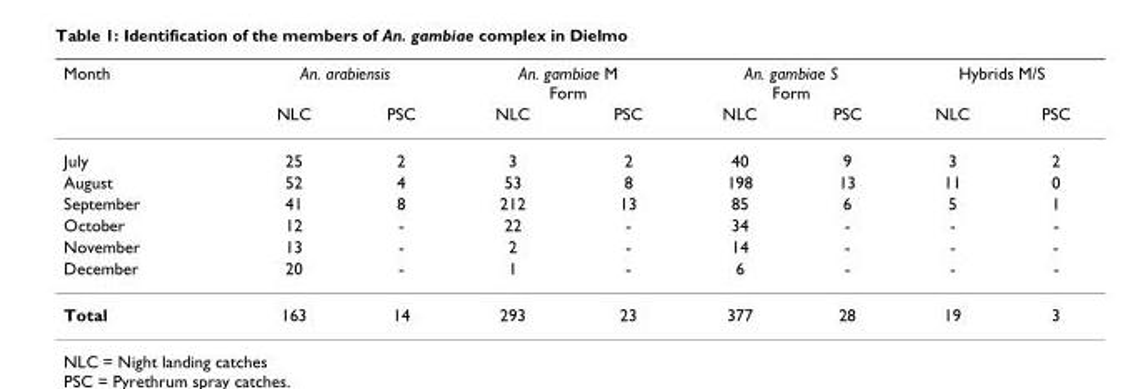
<table><thead><tr><td rowspan="2">Month</td><td colspan="2">An. arabiensis</td><td colspan="2">An. gambiae M Form</td><td colspan="2">An. gambiae S Form</td><td colspan="2">Hybrids M/S</td></tr><tr><td>NLC</td><td>PSC</td><td>NLC</td><td>PSC</td><td>NLC</td><td>PSC</td><td>NLC</td><td>PSC</td></tr></thead><tbody><tr><td>July</td><td>25</td><td>2</td><td>3</td><td>2</td><td>40</td><td>9</td><td>3</td><td>2</td></tr><tr><td>August</td><td>52</td><td>4</td><td>53</td><td>8</td><td>198</td><td>13</td><td>11</td><td>0</td></tr><tr><td>September</td><td>41</td><td>8</td><td>212</td><td>13</td><td>85</td><td>6</td><td>5</td><td>1</td></tr><tr><td>October</td><td>12</td><td>-</td><td>22</td><td>-</td><td>34</td><td>-</td><td>-</td><td>-</td></tr><tr><td>November</td><td>13</td><td>-</td><td>2</td><td>-</td><td>14</td><td>-</td><td>-</td><td>-</td></tr><tr><td>December</td><td>20</td><td>-</td><td>1</td><td>-</td><td>6</td><td>-</td><td>-</td><td>-</td></tr><tr><td>Total</td><td>163</td><td>14</td><td>293</td><td>23</td><td>377</td><td>28</td><td>19</td><td>3</td></tr></tbody></table>